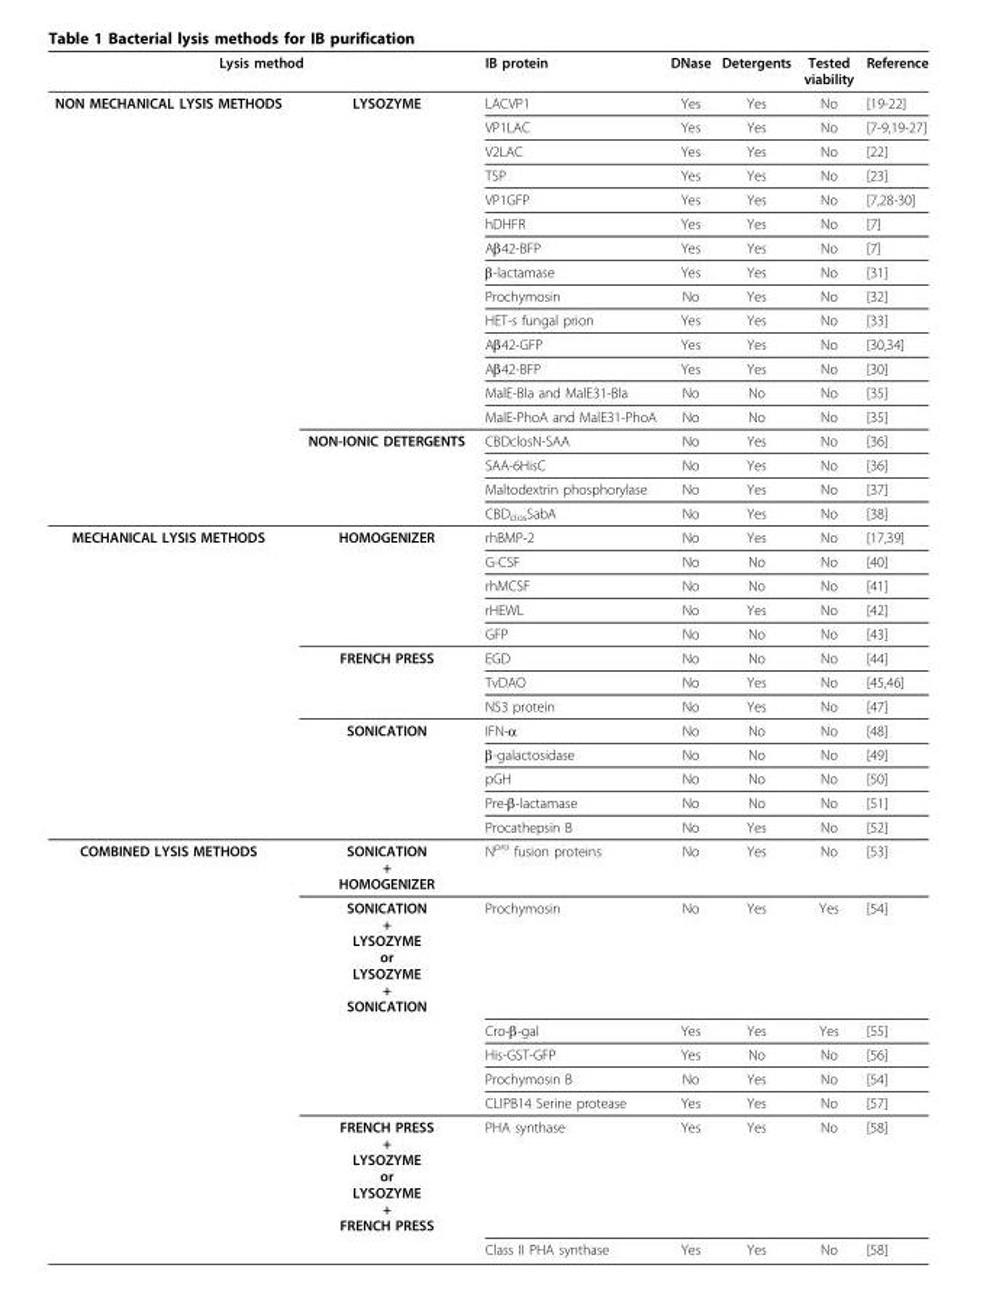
<table><thead><tr><td colspan="2">Lysis method</td><td rowspan="2">IB protein LACVP1</td><td rowspan="2">DNase Yes</td><td rowspan="2">Detergents Yes</td><td rowspan="2">Tested viability No</td><td rowspan="2">Reference [19-22]</td></tr><tr><td>NON MECHANICAL LYSIS METHODS</td><td>LYSOZYME</td></tr></thead><tbody><tr><td></td><td></td><td>VP1LAC</td><td>Yes</td><td>Yes</td><td>No</td><td>[7-9,19-27]</td></tr><tr><td></td><td></td><td>V2LAC</td><td>Yes</td><td>Yes</td><td>No</td><td>[22]</td></tr><tr><td></td><td></td><td>TSP</td><td>Yes</td><td>Yes</td><td>No</td><td>[23]</td></tr><tr><td></td><td></td><td>VP1GFP</td><td>Yes</td><td>Yes</td><td>No</td><td>[7,28-30]</td></tr><tr><td></td><td></td><td>hDHFR</td><td>Yes</td><td>Yes</td><td>No</td><td>[7]</td></tr><tr><td></td><td></td><td>Aβ42-BFP</td><td>Yes</td><td>Yes</td><td>No</td><td>[7]</td></tr><tr><td></td><td></td><td>β-lactamase</td><td>Yes</td><td>Yes</td><td>No</td><td>[31]</td></tr><tr><td></td><td></td><td>Prochymosin</td><td>No</td><td>Yes</td><td>No</td><td>[32]</td></tr><tr><td></td><td></td><td>HET-s fungal prion</td><td>Yes</td><td>Yes</td><td>No</td><td>[33]</td></tr><tr><td></td><td></td><td>Aβ42-GFP</td><td>Yes</td><td>Yes</td><td>No</td><td>[30,34]</td></tr><tr><td></td><td></td><td>Aβ42-BFP</td><td>Yes</td><td>Yes</td><td>No</td><td>[30]</td></tr><tr><td></td><td></td><td>MalE-Bla and MalE31-Bla</td><td>No</td><td>No</td><td>No</td><td>[35]</td></tr><tr><td></td><td></td><td>MalE-PhoA and MalE31-PhoA</td><td>No</td><td>No</td><td>No</td><td>[35]</td></tr><tr><td></td><td>NON-IONIC DETERGENTS</td><td>CBDclosN-SAA</td><td>No</td><td>Yes</td><td>No</td><td>[36]</td></tr><tr><td></td><td></td><td>SAA-6HisC</td><td>No</td><td>Yes</td><td>No</td><td>[36]</td></tr><tr><td></td><td></td><td>Maltodextrin phosphorylase</td><td>No</td><td>Yes</td><td>No</td><td>[37]</td></tr><tr><td></td><td></td><td>CBD<sub>clos</sub>SabA</td><td>No</td><td>Yes</td><td>No</td><td>[38]</td></tr><tr><td rowspan="13">MECHANICAL LYSIS METHODS</td><td>HOMOGENIZER</td><td>rhBMP-2</td><td>No</td><td>Yes</td><td>No</td><td>[17,39]</td></tr><tr><td></td><td>G-CSF</td><td>No</td><td>No</td><td>No</td><td>[40]</td></tr><tr><td></td><td>rhMCSF</td><td>No</td><td>No</td><td>No</td><td>[41]</td></tr><tr><td></td><td>rHEWL</td><td>No</td><td>Yes</td><td>No</td><td>[42]</td></tr><tr><td></td><td>GFP</td><td>No</td><td>No</td><td>No</td><td>[43]</td></tr><tr><td>FRENCH PRESS</td><td>EGD</td><td>No</td><td>No</td><td>No</td><td>[44]</td></tr><tr><td></td><td>TvDAO</td><td>No</td><td>Yes</td><td>No</td><td>[45,46]</td></tr><tr><td></td><td>NS3 protein</td><td>No</td><td>Yes</td><td>No</td><td>[47]</td></tr><tr><td>SONICATION</td><td>IFN-α</td><td>No</td><td>No</td><td>No</td><td>[48]</td></tr><tr><td></td><td>β-galactosidase</td><td>No</td><td>No</td><td>No</td><td>[49]</td></tr><tr><td></td><td>pGH</td><td>No</td><td>No</td><td>No</td><td>[50]</td></tr><tr><td></td><td>Pre-β-lactamase</td><td>No</td><td>No</td><td>No</td><td>[51]</td></tr><tr><td></td><td>Procathepsin B</td><td>No</td><td>Yes</td><td>No</td><td>[52]</td></tr><tr><td rowspan="8">COMBINED LYSIS METHODS</td><td>SONICATION + HOMOGENIZER</td><td>N<sup>pro</sup> fusion proteins</td><td>No</td><td>Yes</td><td>No</td><td>[53]</td></tr><tr><td>SONICATION + LYSOZYME or LYSOZYME + SONICATION</td><td>Prochymosin</td><td>No</td><td>Yes</td><td>Yes</td><td>[54]</td></tr><tr><td></td><td>Cro-β-gal</td><td>Yes</td><td>Yes</td><td>Yes</td><td>[55]</td></tr><tr><td></td><td>His-GST-GFP</td><td>Yes</td><td>No</td><td>No</td><td>[56]</td></tr><tr><td></td><td>Prochymosin B</td><td>No</td><td>Yes</td><td>No</td><td>[54]</td></tr><tr><td></td><td>CLIPB14 Serine protease</td><td>Yes</td><td>Yes</td><td>No</td><td>[57]</td></tr><tr><td>FRENCH PRESS + LYSOZYME or LYSOZYME + FRENCH PRESS</td><td>PHA synthase</td><td>Yes</td><td>Yes</td><td>No</td><td>[58]</td></tr><tr><td></td><td>Class II PHA synthase</td><td>Yes</td><td>Yes</td><td>No</td><td>[58]</td></tr></tbody></table>